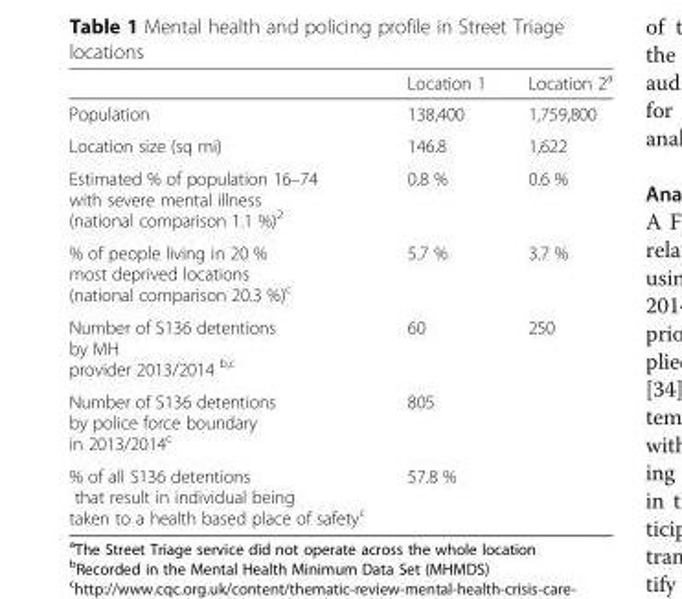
<table><thead><tr><td></td><td>Location 1</td><td>Location 2<sup>a</sup></td></tr></thead><tbody><tr><td>Population</td><td>138,400</td><td>1,759,800</td></tr><tr><td>Location size (sq mi)</td><td>146.8</td><td>1,622</td></tr><tr><td>Estimated % of population 16–74 with severe mental illness (national comparison 1.1 %)<sup>2</sup></td><td>0.8 %</td><td>0.6 %</td></tr><tr><td>% of people living in 20 % most deprived locations (national comparison 20.3 %)<sup>c</sup></td><td>5.7 %</td><td>3.7 %</td></tr><tr><td>Number of S136 detentions by MH provider 2013/2014 <sup>b,c</sup></td><td>60</td><td>250</td></tr><tr><td>Number of S136 detentions by police force boundary in 2013/2014<sup>c</sup></td><td colspan="2">805</td></tr><tr><td>% of all S136 detentions that result in individual being taken to a health based place of safety<sup>c</sup></td><td colspan="2">57.8 %</td></tr></tbody></table>